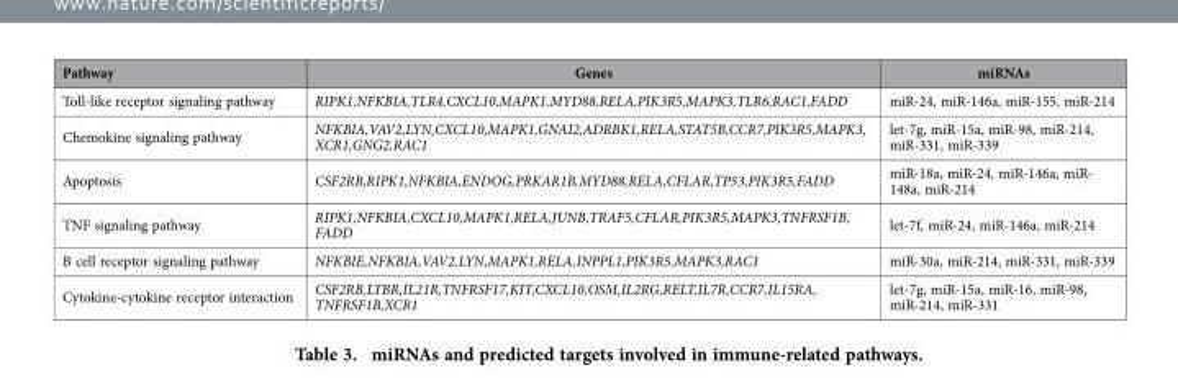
<table><thead><tr><td>Pathway</td><td>Genes</td><td>miRNAs</td></tr></thead><tbody><tr><td>Toll-like receptor signaling pathway</td><td>RIPK1,NFKBIA,TLR4,CXCL10,MAPK1,MYD88,RELA,PIK3R5,MAPK3,TLR6,RAC1,FADD</td><td>miR-24, miR-146a, miR-155, miR-214</td></tr><tr><td>Chemokine signaling pathway</td><td>NFKBIA,VAV2,LYN,CXCL10,MAPK1,GNAI2,ADRBK1,RELA,STAT5B,CCR7,PIK3R5,MAPK3, XCR1,GNG2,RAC1</td><td>let-7g, miR-15a, miR-98, miR-214, miR-331, miR-339</td></tr><tr><td>Apoptosis</td><td>CSF2RB,RIPK1,NFKBIA,ENDOG,PRKAR1B,MYD88,RELA,CFLAR,TP53,PIK3R5,FADD</td><td>miR-18a, miR-24, miR-146a, miR- 148a, miR-214</td></tr><tr><td>TNF signaling pathway</td><td>RIPK1,NFKBIA,CXCL10,MAPK1,RELA,JUNB,TRAF5,CFLAR,PIK3R5,MAPK3,TNFRSF1B, FADD</td><td>let-7f, miR-24, miR-146a, miR-214</td></tr><tr><td>B cell receptor signaling pathway</td><td>NFKBIE,NFKBIA,VAV2,LYN,MAPK1,RELA,INPPL1,PIK3R5,MAPK3,RAC1</td><td>miR-30a, miR-214, miR-331, miR-339</td></tr><tr><td>Cytokine-cytokine receptor interaction</td><td>CSF2RB,LTBR,IL21R,TNFRSF17,KIT,CXCL10,OSM,IL2RG,RELT,IL7R,CCR7,IL15RA, TNFRSF1B,XCR1</td><td>let-7g, miR-15a, miR-16, miR-98, miR-214, miR-331</td></tr></tbody></table>